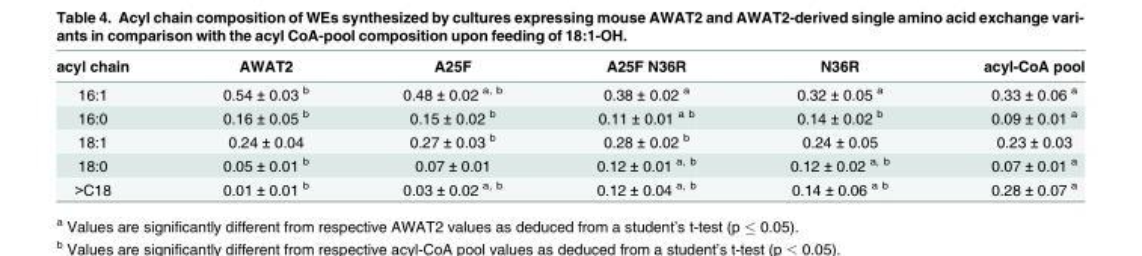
<table><thead><tr><td>acyl chain</td><td>AWAT2</td><td>A25F</td><td>A25F N36R</td><td>N36R</td><td>acyl-CoA pool</td></tr></thead><tbody><tr><td>16:1</td><td>0.54 ± 0.03 <sup>b</sup></td><td>0.48 ± 0.02 <sup>a, b</sup></td><td>0.38 ± 0.02 <sup>a</sup></td><td>0.32 ± 0.05 <sup>a</sup></td><td>0.33 ± 0.06 <sup>a</sup></td></tr><tr><td>16:0</td><td>0.16 ± 0.05 <sup>b</sup></td><td>0.15 ± 0.02 <sup>b</sup></td><td>0.11 ± 0.01 <sup>a b</sup></td><td>0.14 ± 0.02 <sup>b</sup></td><td>0.09 ± 0.01 <sup>a</sup></td></tr><tr><td>18:1</td><td>0.24 ± 0.04</td><td>0.27 ± 0.03 <sup>b</sup></td><td>0.28 ± 0.02 <sup>b</sup></td><td>0.24 ± 0.05</td><td>0.23 ± 0.03</td></tr><tr><td>18:0</td><td>0.05 ± 0.01 <sup>b</sup></td><td>0.07 ± 0.01</td><td>0.12 ± 0.01 <sup>a, b</sup></td><td>0.12 ± 0.02 <sup>a, b</sup></td><td>0.07 ± 0.01 <sup>a</sup></td></tr><tr><td>&gt;C18</td><td>0.01 ± 0.01 <sup>b</sup></td><td>0.03 ± 0.02 <sup>a, b</sup></td><td>0.12 ± 0.04 <sup>a, b</sup></td><td>0.14 ± 0.06 <sup>a b</sup></td><td>0.28 ± 0.07 <sup>a</sup></td></tr></tbody></table>